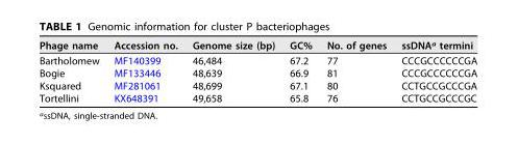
<table><thead><tr><td>Phage name</td><td>Accession no.</td><td>Genome size (bp)</td><td>GC%</td><td>No. of genes</td><td>ssDNA<sup>a</sup> termini</td></tr></thead><tbody><tr><td>Bartholomew</td><td>MF140399</td><td>46,484</td><td>67.2</td><td>77</td><td>CCCGCCCCCCGA</td></tr><tr><td>Bogie</td><td>MF133446</td><td>48,639</td><td>66.9</td><td>81</td><td>CCCGCCCCCCGA</td></tr><tr><td>Ksquared</td><td>MF281061</td><td>48,699</td><td>67.1</td><td>80</td><td>CCTGCCGCCCGA</td></tr><tr><td>Tortellini</td><td>KX648391</td><td>49,658</td><td>65.8</td><td>76</td><td>CCTGCCGCCCGC</td></tr></tbody></table>